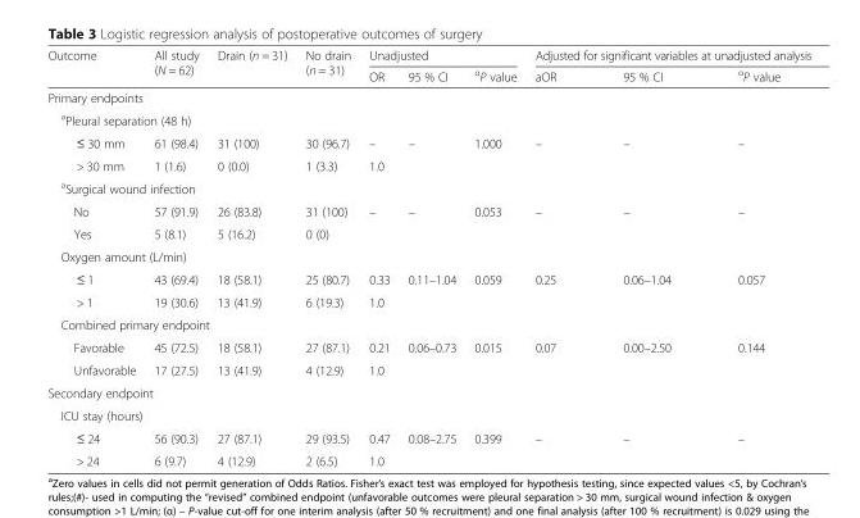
<table><thead><tr><td rowspan="2">Outcome</td><td rowspan="2">All study (N = 62)</td><td rowspan="2">Drain (n = 31)</td><td rowspan="2">No drain (n = 31)</td><td colspan="3">Unadjusted</td><td colspan="3">Adjusted for significant variables at unadjusted analysis</td></tr><tr><td>OR</td><td>95 % CI</td><td><sup>α</sup>P value</td><td>aOR</td><td>95 % CI</td><td><sup>α</sup>P value</td></tr></thead><tbody><tr><td colspan="10">Primary endpoints</td></tr><tr><td colspan="10"><sup>a</sup>Pleural separation (48 h)</td></tr><tr><td>≤ 30 mm</td><td>61 (98.4)</td><td>31 (100)</td><td>30 (96.7)</td><td>–</td><td>–</td><td>1.000</td><td>–</td><td>–</td><td>–</td></tr><tr><td>&gt; 30 mm</td><td>1 (1.6)</td><td>0 (0.0)</td><td>1 (3.3)</td><td>1.0</td><td></td><td></td><td></td><td></td><td></td></tr><tr><td colspan="10"><sup>a</sup>Surgical wound infection</td></tr><tr><td>No</td><td>57 (91.9)</td><td>26 (83.8)</td><td>31 (100)</td><td>–</td><td>–</td><td>0.053</td><td>–</td><td>–</td><td>–</td></tr><tr><td>Yes</td><td>5 (8.1)</td><td>5 (16.2)</td><td>0 (0)</td><td></td><td></td><td></td><td></td><td></td><td></td></tr><tr><td colspan="10">Oxygen amount (L/min)</td></tr><tr><td>≤ 1</td><td>43 (69.4)</td><td>18 (58.1)</td><td>25 (80.7)</td><td>0.33</td><td>0.11–1.04</td><td>0.059</td><td>0.25</td><td>0.06–1.04</td><td>0.057</td></tr><tr><td>&gt; 1</td><td>19 (30.6)</td><td>13 (41.9)</td><td>6 (19.3)</td><td>1.0</td><td></td><td></td><td></td><td></td><td></td></tr><tr><td colspan="10">Combined primary endpoint</td></tr><tr><td>Favorable</td><td>45 (72.5)</td><td>18 (58.1)</td><td>27 (87.1)</td><td>0.21</td><td>0.06–0.73</td><td>0.015</td><td>0.07</td><td>0.00–2.50</td><td>0.144</td></tr><tr><td>Unfavorable</td><td>17 (27.5)</td><td>13 (41.9)</td><td>4 (12.9)</td><td>1.0</td><td></td><td></td><td></td><td></td><td></td></tr><tr><td colspan="10">Secondary endpoint</td></tr><tr><td colspan="10">ICU stay (hours)</td></tr><tr><td>≤ 24</td><td>56 (90.3)</td><td>27 (87.1)</td><td>29 (93.5)</td><td>0.47</td><td>0.08–2.75</td><td>0.399</td><td>–</td><td>–</td><td>–</td></tr><tr><td>&gt; 24</td><td>6 (9.7)</td><td>4 (12.9)</td><td>2 (6.5)</td><td>1.0</td><td></td><td></td><td></td><td></td><td></td></tr></tbody></table>